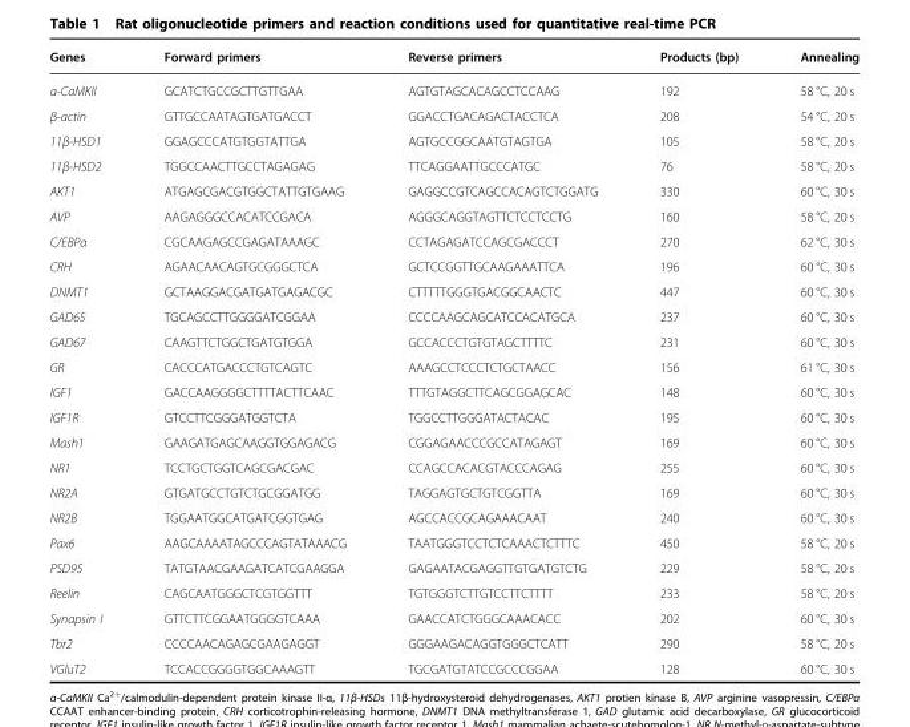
<table><thead><tr><td>Genes</td><td>Forward primers</td><td>Reverse primers</td><td>Products (bp)</td><td>Annealing</td></tr></thead><tbody><tr><td>α-CaMKII</td><td>GCATCTGCCGCTTGTTGAA</td><td>AGTGTAGCACAGCCTCCAAG</td><td>192</td><td>58 °C, 20 s</td></tr><tr><td>β-actin</td><td>GTTGCCAATAGTGATGACCT</td><td>GGACCTGACAGACTACCTCA</td><td>208</td><td>54 °C, 20 s</td></tr><tr><td>11β-HSD1</td><td>GGAGCCCATGTGGTATTGA</td><td>AGTGCCGGCAATGTAGTGA</td><td>105</td><td>58 °C, 20 s</td></tr><tr><td>11β-HSD2</td><td>TGGCCAACTTGCCTAGAGAG</td><td>TTCAGGAATTGCCCATGC</td><td>76</td><td>58 °C, 20 s</td></tr><tr><td>AKT1</td><td>ATGAGCGACGTGGCTATTGTGAAG</td><td>GAGGCCGTCAGCCACAGTCTGGATG</td><td>330</td><td>60 °C, 30 s</td></tr><tr><td>AVP</td><td>AAGAGGGCCACATCCGACA</td><td>AGGGCAGGTAGTTCTCCTCCTG</td><td>160</td><td>58 °C, 20 s</td></tr><tr><td>C/EBPα</td><td>CGCAAGAGCCGAGATAAAGC</td><td>CCTAGAGATCCAGCGACCCT</td><td>270</td><td>62 °C, 30 s</td></tr><tr><td>CRH</td><td>AGAACAACAGTGCGGGCTCA</td><td>GCTCCGGTTGCAAGAAATTCA</td><td>196</td><td>60 °C, 30 s</td></tr><tr><td>DNMT1</td><td>GCTAAGGACGATGATGAGACGC</td><td>CTTTTTGGGTGACGGCAACTC</td><td>447</td><td>60 °C, 30 s</td></tr><tr><td>GAD65</td><td>TGCAGCCTTGGGGATCGGAA</td><td>CCCCAAGCAGCATCCACATGCA</td><td>237</td><td>60 °C, 30 s</td></tr><tr><td>GAD67</td><td>CAAGTTCTGGCTGATGTGGA</td><td>GCCACCCTGTGTAGCTTTTC</td><td>231</td><td>60 °C, 30 s</td></tr><tr><td>GR</td><td>CACCCATGACCCTGTCAGTC</td><td>AAAGCCTCCCTCTGCTAACC</td><td>156</td><td>61 °C, 30 s</td></tr><tr><td>IGF1</td><td>GACCAAGGGGCTTTTACTTCAAC</td><td>TTTGTAGGCTTCAGCGGAGCAC</td><td>148</td><td>60 °C, 30 s</td></tr><tr><td>IGF1R</td><td>GTCCTTCGGGATGGTCTA</td><td>TGGCCTTGGGATACTACAC</td><td>195</td><td>60 °C, 30 s</td></tr><tr><td>Mash1</td><td>GAAGATGAGCAAGGTGGAGACG</td><td>CGGAGAACCCGCCATAGAGT</td><td>169</td><td>60 °C, 30 s</td></tr><tr><td>NR1</td><td>TCCTGCTGGTCAGCGACGAC</td><td>CCAGCCACACGTACCCAGAG</td><td>255</td><td>60 °C, 30 s</td></tr><tr><td>NR2A</td><td>GTGATGCCTGTCTGCGGATGG</td><td>TAGGAGTGCTGTCGGTTA</td><td>169</td><td>60 °C, 30 s</td></tr><tr><td>NR2B</td><td>TGGAATGGCATGATCGGTGAG</td><td>AGCCACCGCAGAAACAAT</td><td>240</td><td>60 °C, 30 s</td></tr><tr><td>Pax6</td><td>AAGCAAAATAGCCCAGTATAAACG</td><td>TAATGGGTCCTCTCAAACTCTTTC</td><td>450</td><td>58 °C, 20 s</td></tr><tr><td>PSD95</td><td>TATGTAACGAAGATCATCGAAGGA</td><td>GAGAATACGAGGTTGTGATGTCTG</td><td>229</td><td>58 °C, 20 s</td></tr><tr><td>Reelin</td><td>CAGCAATGGGCTCGTGGTTT</td><td>TGTGGGTCTTGTCCTTCTTTT</td><td>233</td><td>58 °C, 20 s</td></tr><tr><td>Synapsin I</td><td>GTTCTTCGGAATGGGGTCAAA</td><td>GAACCATCTGGGCAAACACC</td><td>202</td><td>60 °C, 30 s</td></tr><tr><td>Tbr2</td><td>CCCCAACAGAGCGAAGAGGT</td><td>GGGAAGACAGGTGGGCTCATT</td><td>290</td><td>58 °C, 20 s</td></tr><tr><td>VGluT2</td><td>TCCACCGGGGTGGCAAAGTT</td><td>TGCGATGTATCCGCCCGGAA</td><td>128</td><td>60 °C, 30 s</td></tr></tbody></table>